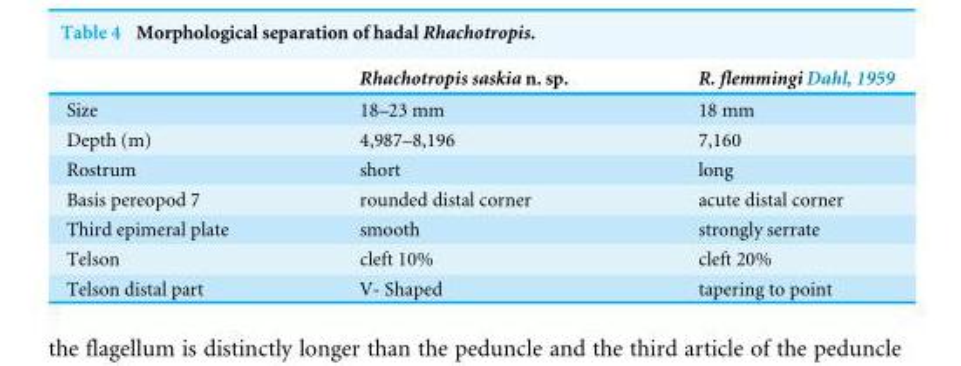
<table><thead><tr><td></td><td>Rhachotropis saskia n. sp.</td><td>R. flemmingi Dahl, 1959</td></tr></thead><tbody><tr><td>Size</td><td>18–23 mm</td><td>18 mm</td></tr><tr><td>Depth (m)</td><td>4,987–8,196</td><td>7,160</td></tr><tr><td>Rostrum</td><td>short</td><td>long</td></tr><tr><td>Basis pereopod 7</td><td>rounded distal corner</td><td>acute distal corner</td></tr><tr><td>Third epimeral plate</td><td>smooth</td><td>strongly serrate</td></tr><tr><td>Telson</td><td>cleft 10%</td><td>cleft 20%</td></tr><tr><td>Telson distal part</td><td>V- Shaped</td><td>tapering to point</td></tr></tbody></table>